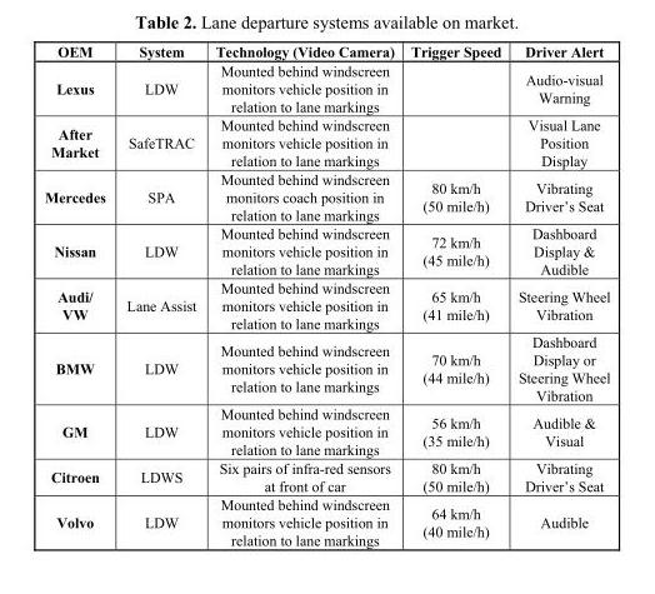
<table><thead><tr><td>OEM</td><td>System</td><td>Technology (Video Camera)</td><td>Trigger Speed</td><td>Driver Alert</td></tr></thead><tbody><tr><td>Lexus</td><td>LDW</td><td>Mounted behind windscreen monitors vehicle position in relation to lane markings</td><td></td><td>Audio-visual Warning</td></tr><tr><td>After Market</td><td>SafeTRAC</td><td>Mounted behind windscreen monitors vehicle position in relation to lane markings</td><td></td><td>Visual Lane Position Display</td></tr><tr><td>Mercedes</td><td>SPA</td><td>Mounted behind windscreen monitors coach position in relation to lane markings</td><td>80 km/h (50 mile/h)</td><td>Vibrating Driver’s Seat</td></tr><tr><td>Nissan</td><td>LDW</td><td>Mounted behind windscreen monitors vehicle position in relation to lane markings</td><td>72 km/h (45 mile/h)</td><td>Dashboard Display &amp; Audible</td></tr><tr><td>Audi/ VW</td><td>Lane Assist</td><td>Mounted behind windscreen monitors vehicle position in relation to lane markings</td><td>65 km/h (41 mile/h)</td><td>Steering Wheel Vibration</td></tr><tr><td>BMW</td><td>LDW</td><td>Mounted behind windscreen monitors vehicle position in relation to lane markings</td><td>70 km/h (44 mile/h)</td><td>Dashboard Display or Steering Wheel Vibration</td></tr><tr><td>GM</td><td>LDW</td><td>Mounted behind windscreen monitors vehicle position in relation to lane markings</td><td>56 km/h (35 mile/h)</td><td>Audible &amp; Visual</td></tr><tr><td>Citroen</td><td>LDWS</td><td>Six pairs of infra-red sensors at front of car</td><td>80 km/h (50 mile/h)</td><td>Vibrating Driver’s Seat</td></tr><tr><td>Volvo</td><td>LDW</td><td>Mounted behind windscreen monitors vehicle position in relation to lane markings</td><td>64 km/h (40 mile/h)</td><td>Audible</td></tr></tbody></table>